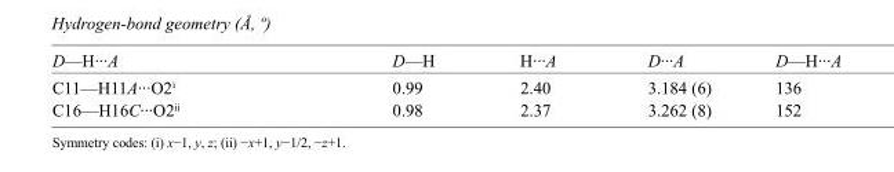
<table><tbody><tr><td>D—H···A</td><td>D—H</td><td>H···A</td><td>D···A</td><td>D—H···A</td></tr><tr><td>C11—H11A···O2<sup>i</sup></td><td>0.99</td><td>2.40</td><td>3.184 (6)</td><td>136</td></tr><tr><td>C16—H16C···O2<sup>ii</sup></td><td>0.98</td><td>2.37</td><td>3.262 (8)</td><td>152</td></tr></tbody></table>